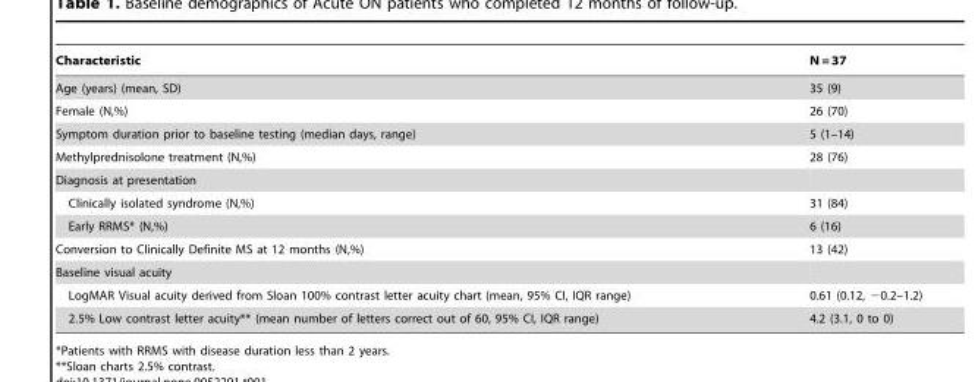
<table><thead><tr><td>Characteristic</td><td>N = 37</td></tr></thead><tbody><tr><td>Age (years) (mean, SD)</td><td>35 (9)</td></tr><tr><td>Female (N,%)</td><td>26 (70)</td></tr><tr><td>Symptom duration prior to baseline testing (median days, range)</td><td>5 (1–14)</td></tr><tr><td>Methylprednisolone treatment (N,%)</td><td>28 (76)</td></tr><tr><td colspan="2">Diagnosis at presentation</td></tr><tr><td>Clinically isolated syndrome (N,%)</td><td>31 (84)</td></tr><tr><td>Early RRMS* (N,%)</td><td>6 (16)</td></tr><tr><td>Conversion to Clinically Definite MS at 12 months (N,%)</td><td>13 (42)</td></tr><tr><td colspan="2">Baseline visual acuity</td></tr><tr><td>LogMAR Visual acuity derived from Sloan 100% contrast letter acuity chart (mean, 95% CI, IQR range)</td><td>0.61 (0.12, −0.2–1.2)</td></tr><tr><td>2.5% Low contrast letter acuity** (mean number of letters correct out of 60, 95% CI, IQR range)</td><td>4.2 (3.1, 0 to 0)</td></tr></tbody></table>